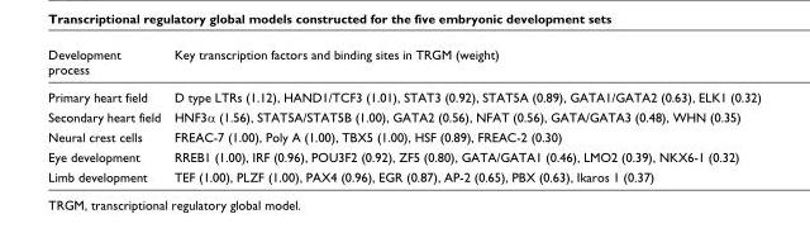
<table><thead><tr><td>Development process</td><td>Key transcription factors and binding sites in TRGM (weight)</td></tr></thead><tbody><tr><td>Primary heart field</td><td>D type LTRs (1.12), HAND1/TCF3 (1.01), STAT3 (0.92), STAT5A (0.89), GATA1/GATA2 (0.63), ELK1 (0.32)</td></tr><tr><td>Secondary heart field</td><td>HNF3α (1.56), STAT5A/STAT5B (1.00), GATA2 (0.56), NFAT (0.56), GATA/GATA3 (0.48), WHN (0.35)</td></tr><tr><td>Neural crest cells</td><td>FREAC-7 (1.00), Poly A (1.00), TBX5 (1.00), HSF (0.89), FREAC-2 (0.30)</td></tr><tr><td>Eye development</td><td>RREB1 (1.00), IRF (0.96), POU3F2 (0.92), ZF5 (0.80), GATA/GATA1 (0.46), LMO2 (0.39), NKX6-1 (0.32)</td></tr><tr><td>Limb development</td><td>TEF (1.00), PLZF (1.00), PAX4 (0.96), EGR (0.87), AP-2 (0.65), PBX (0.63), Ikaros 1 (0.37)</td></tr></tbody></table>